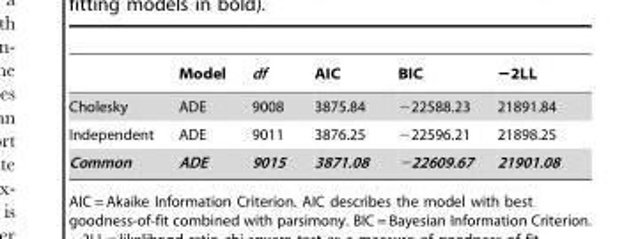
<table><thead><tr><td></td><td>Model</td><td>df</td><td>AIC</td><td>BIC</td><td>−2LL</td></tr></thead><tbody><tr><td>Cholesky</td><td>ADE</td><td>9008</td><td>3875.84</td><td>−22588.23</td><td>21891.84</td></tr><tr><td>Independent</td><td>ADE</td><td>9011</td><td>3876.25</td><td>−22596.21</td><td>21898.25</td></tr><tr><td>Common</td><td>ADE</td><td>9015</td><td>3871.08</td><td>−22609.67</td><td>21901.08</td></tr></tbody></table>